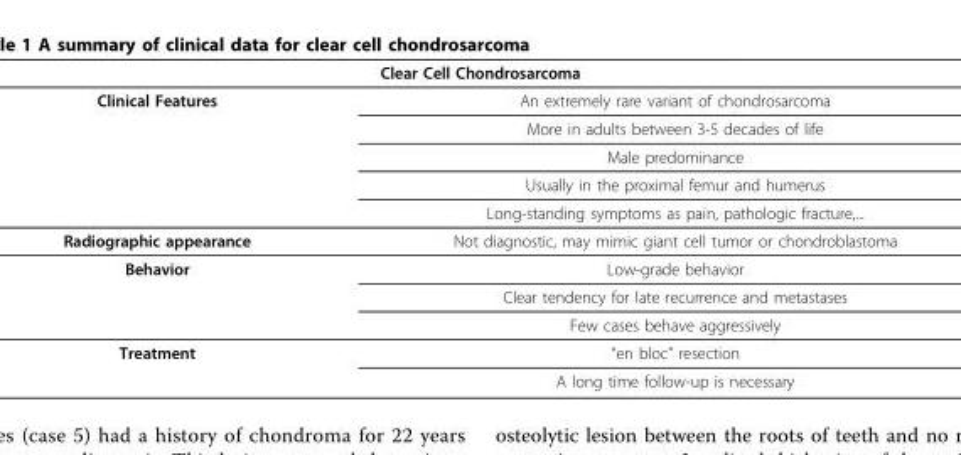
<table><thead><tr><td colspan="2">Clear Cell Chondrosarcoma</td></tr><tr><td>Clinical Features</td><td>An extremely rare variant of chondrosarcoma</td></tr></thead><tbody><tr><td></td><td>More in adults between 3-5 decades of life</td></tr><tr><td></td><td>Male predominance</td></tr><tr><td></td><td>Usually in the proximal femur and humerus</td></tr><tr><td></td><td>Long-standing symptoms as pain, pathologic fracture,...</td></tr><tr><td>Radiographic appearance</td><td>Not diagnostic, may mimic giant cell tumor or chondroblastoma</td></tr><tr><td rowspan="3">Behavior</td><td>Low-grade behavior</td></tr><tr><td>Clear tendency for late recurrence and metastases</td></tr><tr><td>Few cases behave aggressively</td></tr><tr><td rowspan="2">Treatment</td><td>“en bloc” resection</td></tr><tr><td>A long time follow-up is necessary</td></tr></tbody></table>